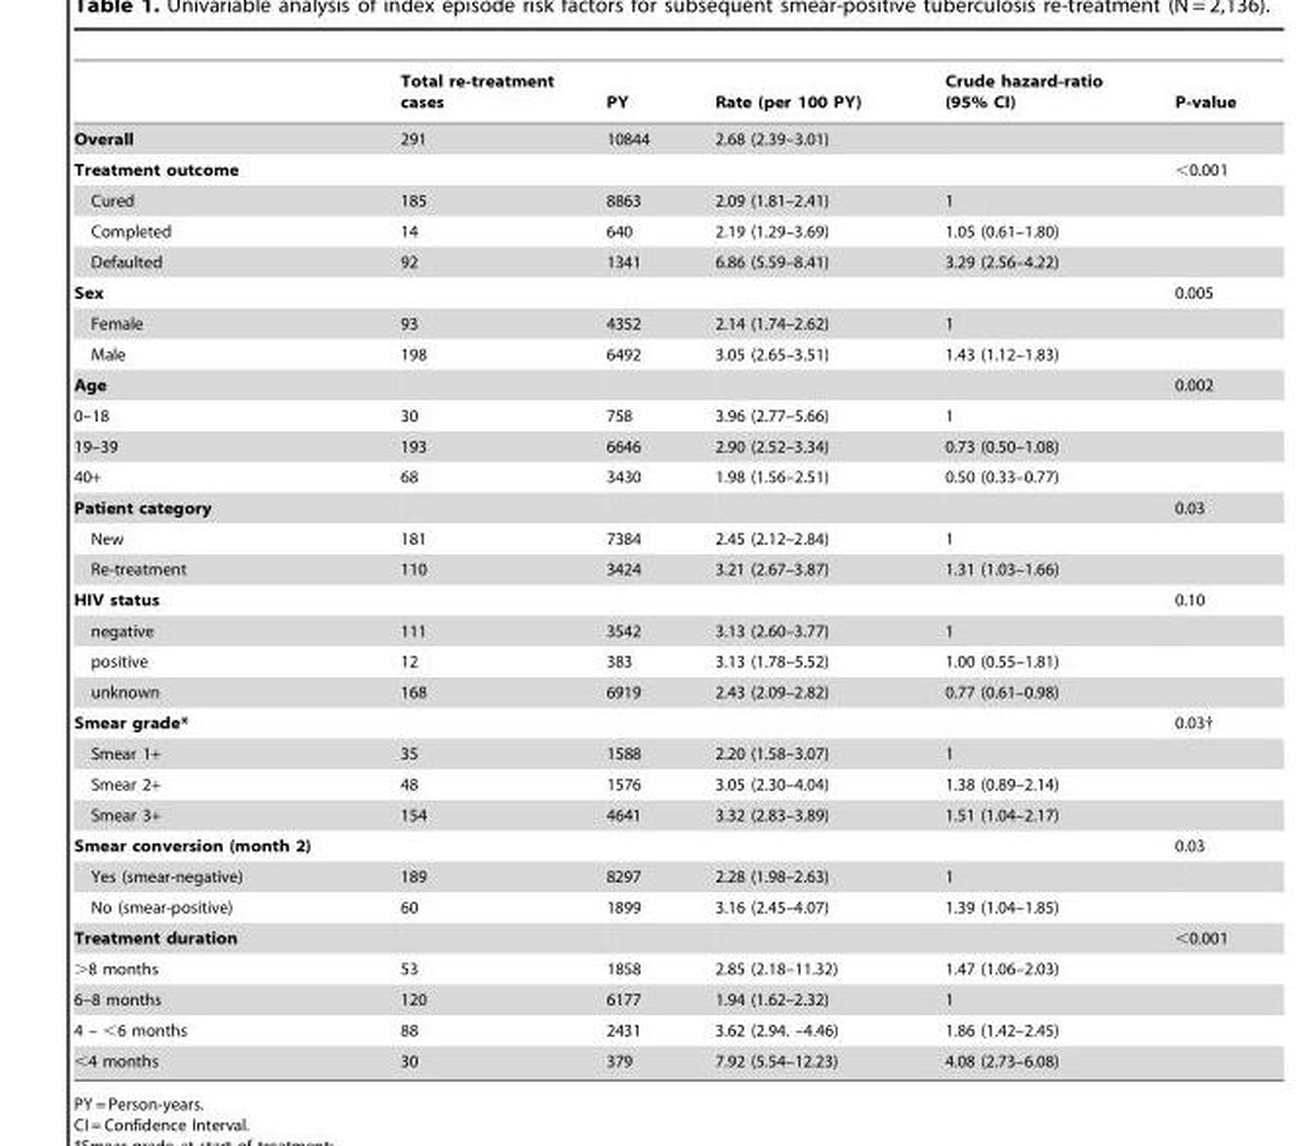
<table><thead><tr><td></td><td>Total re-treatment cases</td><td>PY</td><td>Rate (per 100 PY)</td><td>Crude hazard-ratio (95% CI)</td><td>P-value</td></tr></thead><tbody><tr><td>Overall</td><td>291</td><td>10844</td><td>2.68 (2.39–3.01)</td><td></td><td></td></tr><tr><td>Treatment outcome</td><td></td><td></td><td></td><td></td><td>&lt;0.001</td></tr><tr><td>Cured</td><td>185</td><td>8863</td><td>2.09 (1.81–2.41)</td><td>1</td><td></td></tr><tr><td>Completed</td><td>14</td><td>640</td><td>2.19 (1.29–3.69)</td><td>1.05 (0.61–1.80)</td><td></td></tr><tr><td>Defaulted</td><td>92</td><td>1341</td><td>6.86 (5.59–8.41)</td><td>3.29 (2.56–4.22)</td><td></td></tr><tr><td>Sex</td><td></td><td></td><td></td><td></td><td>0.005</td></tr><tr><td>Female</td><td>93</td><td>4352</td><td>2.14 (1.74–2.62)</td><td>1</td><td></td></tr><tr><td>Male</td><td>198</td><td>6492</td><td>3.05 (2.65–3.51)</td><td>1.43 (1.12–1.83)</td><td></td></tr><tr><td>Age</td><td></td><td></td><td></td><td></td><td>0.002</td></tr><tr><td>0–18</td><td>30</td><td>758</td><td>3.96 (2.77–5.66)</td><td>1</td><td></td></tr><tr><td>19–39</td><td>193</td><td>6646</td><td>2.90 (2.52–3.34)</td><td>0.73 (0.50–1.08)</td><td></td></tr><tr><td>40+</td><td>68</td><td>3430</td><td>1.98 (1.56–2.51)</td><td>0.50 (0.33–0.77)</td><td></td></tr><tr><td>Patient category</td><td></td><td></td><td></td><td></td><td>0.03</td></tr><tr><td>New</td><td>181</td><td>7384</td><td>2.45 (2.12–2.84)</td><td>1</td><td></td></tr><tr><td>Re-treatment</td><td>110</td><td>3424</td><td>3.21 (2.67–3.87)</td><td>1.31 (1.03–1.66)</td><td></td></tr><tr><td>HIV status</td><td></td><td></td><td></td><td></td><td>0.10</td></tr><tr><td>negative</td><td>111</td><td>3542</td><td>3.13 (2.60–3.77)</td><td>1</td><td></td></tr><tr><td>positive</td><td>12</td><td>383</td><td>3.13 (1.78–5.52)</td><td>1.00 (0.55–1.81)</td><td></td></tr><tr><td>unknown</td><td>168</td><td>6919</td><td>2.43 (2.09–2.82)</td><td>0.77 (0.61–0.98)</td><td></td></tr><tr><td>Smear grade*</td><td></td><td></td><td></td><td></td><td>0.03†</td></tr><tr><td>Smear 1+</td><td>35</td><td>1588</td><td>2.20 (1.58–3.07)</td><td>1</td><td></td></tr><tr><td>Smear 2+</td><td>48</td><td>1576</td><td>3.05 (2.30–4.04)</td><td>1.38 (0.89–2.14)</td><td></td></tr><tr><td>Smear 3+</td><td>154</td><td>4641</td><td>3.32 (2.83–3.89)</td><td>1.51 (1.04–2.17)</td><td></td></tr><tr><td>Smear conversion (month 2)</td><td></td><td></td><td></td><td></td><td>0.03</td></tr><tr><td>Yes (smear-negative)</td><td>189</td><td>8297</td><td>2.28 (1.98–2.63)</td><td>1</td><td></td></tr><tr><td>No (smear-positive)</td><td>60</td><td>1899</td><td>3.16 (2.45–4.07)</td><td>1.39 (1.04–1.85)</td><td></td></tr><tr><td>Treatment duration</td><td></td><td></td><td></td><td></td><td>&lt;0.001</td></tr><tr><td>&gt;8 months</td><td>53</td><td>1858</td><td>2.85 (2.18–11.32)</td><td>1.47 (1.06–2.03)</td><td></td></tr><tr><td>6–8 months</td><td>120</td><td>6177</td><td>1.94 (1.62–2.32)</td><td>1</td><td></td></tr><tr><td>4 – &lt;6 months</td><td>88</td><td>2431</td><td>3.62 (2.94. –4.46)</td><td>1.86 (1.42–2.45)</td><td></td></tr><tr><td>&lt;4 months</td><td>30</td><td>379</td><td>7.92 (5.54–12.23)</td><td>4.08 (2.73–6.08)</td><td></td></tr></tbody></table>